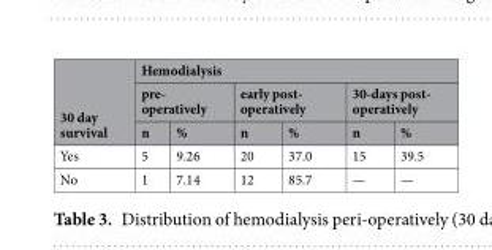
<table><thead><tr><td rowspan="3">30 day survival</td><td colspan="6">Hemodialysis</td></tr><tr><td colspan="2">pre- operatively</td><td colspan="2">early post- operatively</td><td colspan="2">30-days post- operatively</td></tr><tr><td>n</td><td>%</td><td>n</td><td>%</td><td>n</td><td>%</td></tr></thead><tbody><tr><td>Yes</td><td>5</td><td>9.26</td><td>20</td><td>37.0</td><td>15</td><td>39.5</td></tr><tr><td>No</td><td>1</td><td>7.14</td><td>12</td><td>85.7</td><td>—</td><td>—</td></tr></tbody></table>